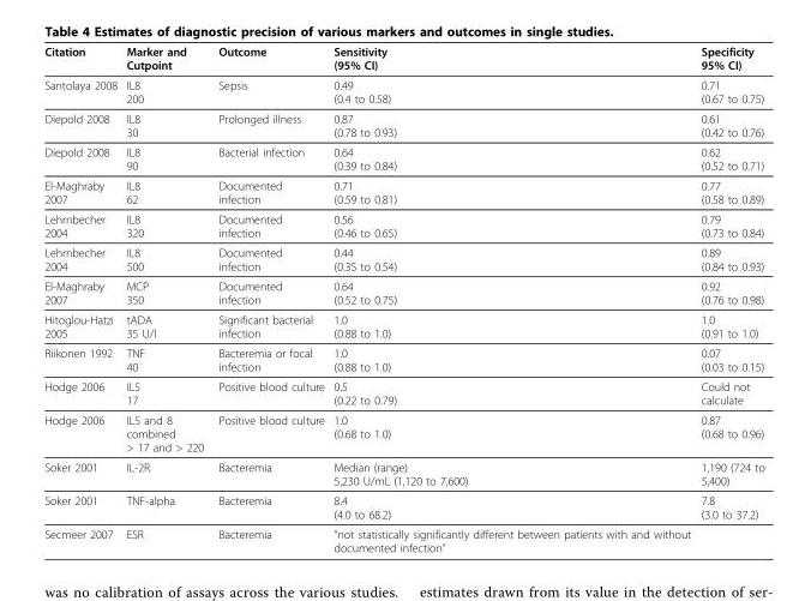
<table><thead><tr><td>Citation</td><td>Marker and Cutpoint</td><td>Outcome</td><td>Sensitivity (95% CI)</td><td>Specificity 95% CI)</td></tr></thead><tbody><tr><td>Santolaya 2008</td><td>IL8 200</td><td>Sepsis</td><td>0.49 (0.4 to 0.58)</td><td>0.71 (0.67 to 0.75)</td></tr><tr><td>Diepold 2008</td><td>IL8 30</td><td>Prolonged illness</td><td>0.87 (0.78 to 0.93)</td><td>0.61 (0.42 to 0.76)</td></tr><tr><td>Diepold 2008</td><td>IL8 90</td><td>Bacterial infection</td><td>0.64 (0.39 to 0.84)</td><td>0.62 (0.52 to 0.71)</td></tr><tr><td>El-Maghraby 2007</td><td>IL8 62</td><td>Documented infection</td><td>0.71 (0.59 to 0.81)</td><td>0.77 (0.58 to 0.89)</td></tr><tr><td>Lehrnbecher 2004</td><td>IL8 320</td><td>Documented infection</td><td>0.56 (0.46 to 0.65)</td><td>0.79 (0.73 to 0.84)</td></tr><tr><td>Lehrnbecher 2004</td><td>IL8 500</td><td>Documented infection</td><td>0.44 (0.35 to 0.54)</td><td>0.89 (0.84 to 0.93)</td></tr><tr><td>El-Maghraby 2007</td><td>MCP 350</td><td>Documented infection</td><td>0.64 (0.52 to 0.75)</td><td>0.92 (0.76 to 0.98)</td></tr><tr><td>Hitoglou-Hatzi 2005</td><td>tADA 35 U/l</td><td>Significant bacterial infection</td><td>1.0 (0.88 to 1.0)</td><td>1.0 (0.91 to 1.0)</td></tr><tr><td>Riikonen 1992</td><td>TNF 40</td><td>Bacteremia or focal infection</td><td>1.0 (0.88 to 1.0)</td><td>0.07 (0.03 to 0.15)</td></tr><tr><td>Hodge 2006</td><td>IL5 17</td><td>Positive blood culture</td><td>0.5 (0.22 to 0.79)</td><td>Could not calculate</td></tr><tr><td>Hodge 2006</td><td>IL5 and 8 combined &gt; 17 and &gt; 220</td><td>Positive blood culture</td><td>1.0 (0.68 to 1.0)</td><td>0.87 (0.68 to 0.96)</td></tr><tr><td>Soker 2001</td><td>IL-2R</td><td>Bacteremia</td><td>Median (range) 5,230 U/mL (1,120 to 7,600)</td><td>1,190 (724 to 5,400)</td></tr><tr><td>Soker 2001</td><td>TNF-alpha</td><td>Bacteremia</td><td>8.4 (4.0 to 68.2)</td><td>7.8 (3.0 to 37.2)</td></tr><tr><td>Secmeer 2007</td><td>ESR</td><td>Bacteremia</td><td>“not statistically significantly different between patients with and without documented infection”</td><td></td></tr></tbody></table>